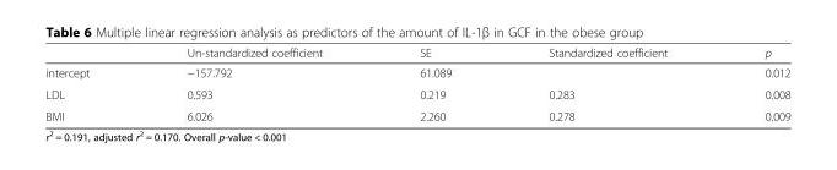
<table><thead><tr><td></td><td>Un-standardized coefficient</td><td>SE</td><td>Standardized coefficient</td><td>p</td></tr></thead><tbody><tr><td>intercept</td><td>−157.792</td><td>61.089</td><td></td><td>0.012</td></tr><tr><td>LDL</td><td>0.593</td><td>0.219</td><td>0.283</td><td>0.008</td></tr><tr><td>BMI</td><td>6.026</td><td>2.260</td><td>0.278</td><td>0.009</td></tr></tbody></table>